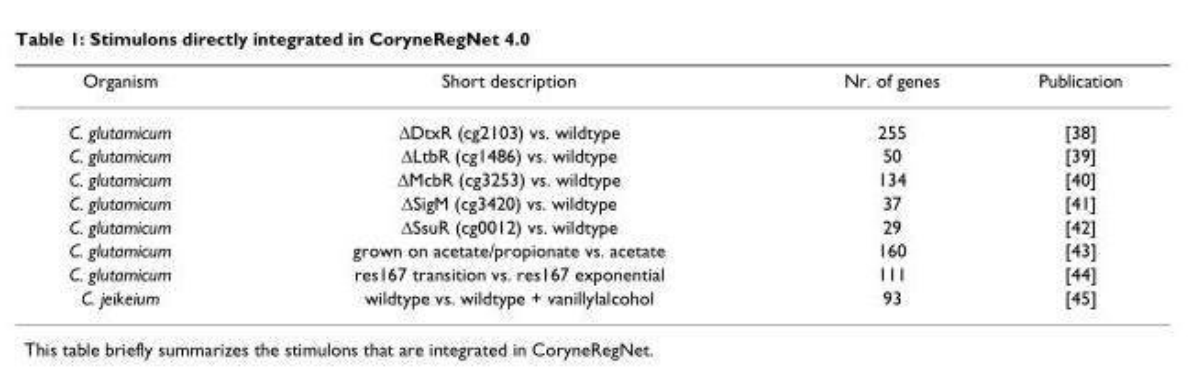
<table><thead><tr><td>Organism</td><td>Short description</td><td>Nr. of genes</td><td>Publication</td></tr></thead><tbody><tr><td>C. glutamicum</td><td>ΔDtxR (cg2103) vs. wildtype</td><td>255</td><td>[38]</td></tr><tr><td>C. glutamicum</td><td>ΔLtbR (cg1486) vs. wildtype</td><td>50</td><td>[39]</td></tr><tr><td>C. glutamicum</td><td>ΔMcbR (cg3253) vs. wildtype</td><td>134</td><td>[40]</td></tr><tr><td>C. glutamicum</td><td>ΔSigM (cg3420) vs. wildtype</td><td>37</td><td>[41]</td></tr><tr><td>C. glutamicum</td><td>ΔSsuR (cg0012) vs. wildtype</td><td>29</td><td>[42]</td></tr><tr><td>C. glutamicum</td><td>grown on acetate/propionate vs. acetate</td><td>160</td><td>[43]</td></tr><tr><td>C. glutamicum</td><td>res167 transition vs. res167 exponential</td><td>111</td><td>[44]</td></tr><tr><td>C. jeikeium</td><td>wildtype vs. wildtype + vanillylalcohol</td><td>93</td><td>[45]</td></tr></tbody></table>